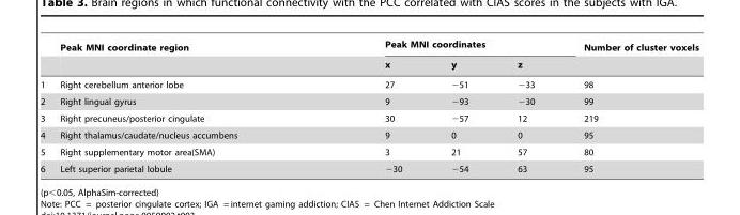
<table><thead><tr><td rowspan="2"></td><td rowspan="2">Peak MNI coordinate region</td><td colspan="3">Peak MNI coordinates</td><td rowspan="2">Number of cluster voxels</td></tr><tr><td>x</td><td>y</td><td>z</td></tr></thead><tbody><tr><td>1</td><td>Right cerebellum anterior lobe</td><td>27</td><td>−51</td><td>−33</td><td>98</td></tr><tr><td>2</td><td>Right lingual gyrus</td><td>9</td><td>−93</td><td>−30</td><td>99</td></tr><tr><td>3</td><td>Right precuneus/posterior cingulate</td><td>30</td><td>−57</td><td>12</td><td>219</td></tr><tr><td>4</td><td>Right thalamus/caudate/nucleus accumbens</td><td>9</td><td>0</td><td>0</td><td>95</td></tr><tr><td>5</td><td>Right supplementary motor area(SMA)</td><td>3</td><td>21</td><td>57</td><td>80</td></tr><tr><td>6</td><td>Left superior parietal lobule</td><td>−30</td><td>−54</td><td>63</td><td>95</td></tr></tbody></table>